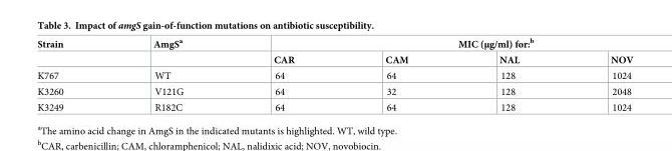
<table><thead><tr><td rowspan="2">Strain</td><td rowspan="2">AmgS<sup>a</sup></td><td colspan="4">MIC (μg/ml) for:<sup>b</sup></td></tr><tr><td>CAR</td><td>CAM</td><td>NAL</td><td>NOV</td></tr></thead><tbody><tr><td>K767</td><td>WT</td><td>64</td><td>64</td><td>128</td><td>1024</td></tr><tr><td>K3260</td><td>V121G</td><td>64</td><td>32</td><td>128</td><td>2048</td></tr><tr><td>K3249</td><td>R182C</td><td>64</td><td>64</td><td>128</td><td>1024</td></tr></tbody></table>